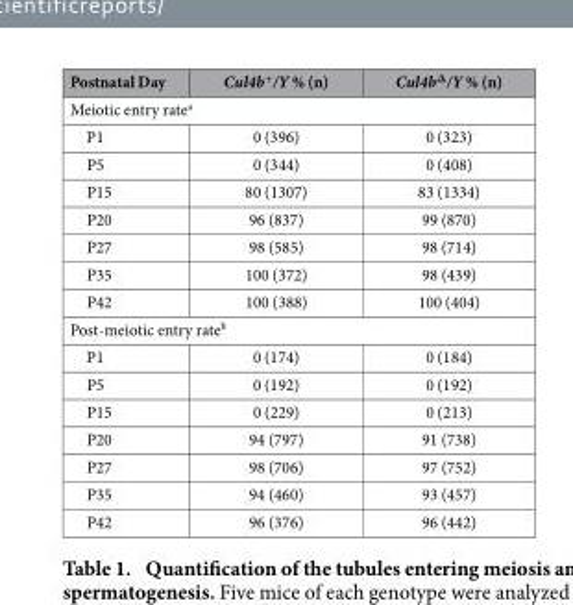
<table><thead><tr><td>Postnatal Day</td><td>Cul4b<sup>+</sup>/Y % (n)</td><td>Cul4b<sup>Δ</sup>/Y % (n)</td></tr></thead><tbody><tr><td colspan="3">Meiotic entry rate<sup>a</sup></td></tr><tr><td>P1</td><td>0 (396)</td><td>0 (323)</td></tr><tr><td>P5</td><td>0 (344)</td><td>0 (408)</td></tr><tr><td>P15</td><td>80 (1307)</td><td>83 (1334)</td></tr><tr><td>P20</td><td>96 (837)</td><td>99 (870)</td></tr><tr><td>P27</td><td>98 (585)</td><td>98 (714)</td></tr><tr><td>P35</td><td>100 (372)</td><td>98 (439)</td></tr><tr><td>P42</td><td>100 (388)</td><td>100 (404)</td></tr><tr><td colspan="3">Post-meiotic entry rate<sup>b</sup></td></tr><tr><td>P1</td><td>0 (174)</td><td>0 (184)</td></tr><tr><td>P5</td><td>0 (192)</td><td>0 (192)</td></tr><tr><td>P15</td><td>0 (229)</td><td>0 (213)</td></tr><tr><td>P20</td><td>94 (797)</td><td>91 (738)</td></tr><tr><td>P27</td><td>98 (706)</td><td>97 (752)</td></tr><tr><td>P35</td><td>94 (460)</td><td>93 (457)</td></tr><tr><td>P42</td><td>96 (376)</td><td>96 (442)</td></tr></tbody></table>